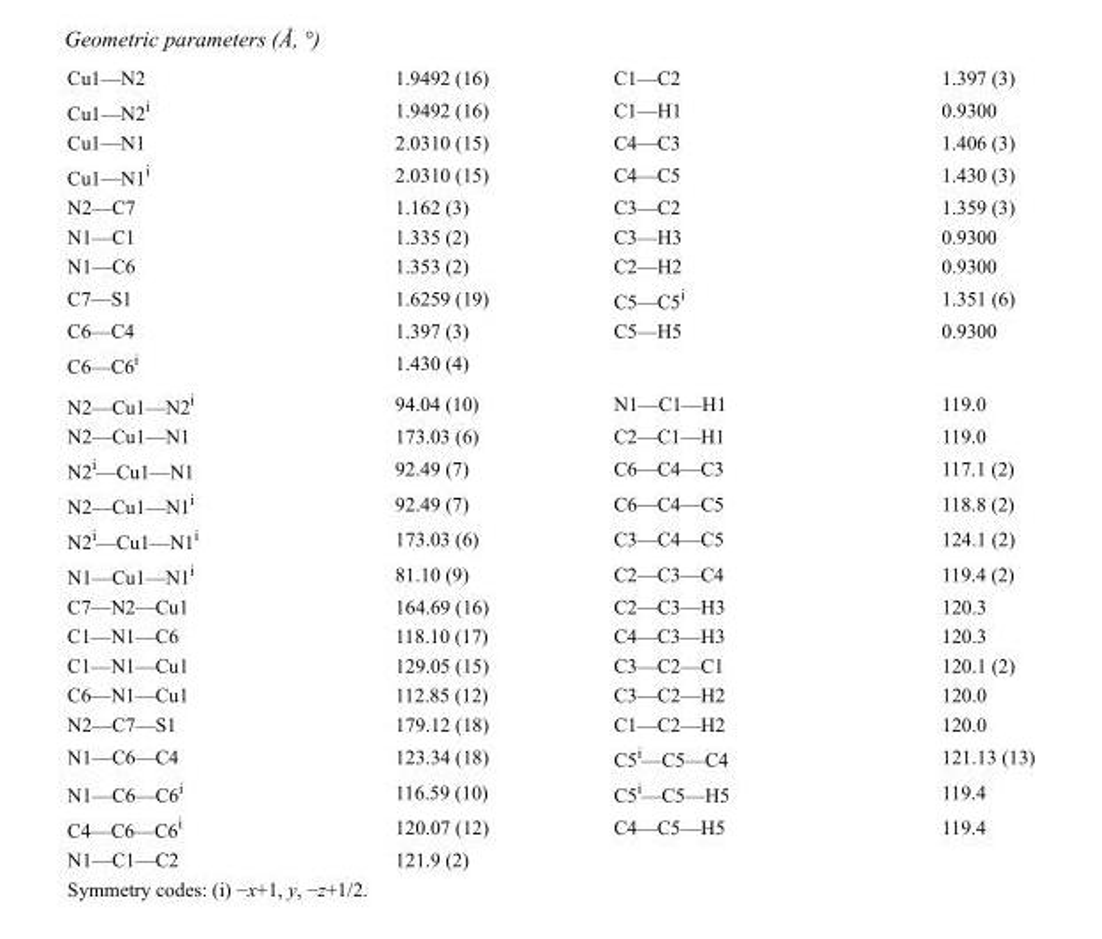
<table><tbody><tr><td>Cu1—N2</td><td>1.9492 (16)</td><td>C1—C2</td><td>1.397 (3)</td></tr><tr><td>Cu1—N2<sup>i</sup></td><td>1.9492 (16)</td><td>C1—H1</td><td>0.9300</td></tr><tr><td>Cu1—N1</td><td>2.0310 (15)</td><td>C4—C3</td><td>1.406 (3)</td></tr><tr><td>Cu1—N1<sup>i</sup></td><td>2.0310 (15)</td><td>C4—C5</td><td>1.430 (3)</td></tr><tr><td>N2—C7</td><td>1.162 (3)</td><td>C3—C2</td><td>1.359 (3)</td></tr><tr><td>N1—C1</td><td>1.335 (2)</td><td>C3—H3</td><td>0.9300</td></tr><tr><td>N1—C6</td><td>1.353 (2)</td><td>C2—H2</td><td>0.9300</td></tr><tr><td>C7—S1</td><td>1.6259 (19)</td><td>C5—C5<sup>i</sup></td><td>1.351 (6)</td></tr><tr><td>C6—C4</td><td>1.397 (3)</td><td>C5—H5</td><td>0.9300</td></tr><tr><td>C6—C6<sup>i</sup></td><td>1.430 (4)</td><td></td><td></td></tr><tr><td>N2—Cu1—N2<sup>i</sup></td><td>94.04 (10)</td><td>N1—C1—H1</td><td>119.0</td></tr><tr><td>N2—Cu1—N1</td><td>173.03 (6)</td><td>C2—C1—H1</td><td>119.0</td></tr><tr><td>N2<sup>i</sup>—Cu1—N1</td><td>92.49 (7)</td><td>C6—C4—C3</td><td>117.1 (2)</td></tr><tr><td>N2—Cu1—N1<sup>i</sup></td><td>92.49 (7)</td><td>C6—C4—C5</td><td>118.8 (2)</td></tr><tr><td>N2<sup>i</sup>—Cu1—N1<sup>i</sup></td><td>173.03 (6)</td><td>C3—C4—C5</td><td>124.1 (2)</td></tr><tr><td>N1—Cu1—N1<sup>i</sup></td><td>81.10 (9)</td><td>C2—C3—C4</td><td>119.4 (2)</td></tr><tr><td>C7—N2—Cu1</td><td>164.69 (16)</td><td>C2—C3—H3</td><td>120.3</td></tr><tr><td>C1—N1—C6</td><td>118.10 (17)</td><td>C4—C3—H3</td><td>120.3</td></tr><tr><td>C1—N1—Cu1</td><td>129.05 (15)</td><td>C3—C2—C1</td><td>120.1 (2)</td></tr><tr><td>C6—N1—Cu1</td><td>112.85 (12)</td><td>C3—C2—H2</td><td>120.0</td></tr><tr><td>N2—C7—S1</td><td>179.12 (18)</td><td>C1—C2—H2</td><td>120.0</td></tr><tr><td>N1—C6—C4</td><td>123.34 (18)</td><td>C5<sup>i</sup>—C5—C4</td><td>121.13 (13)</td></tr><tr><td>N1—C6—C6<sup>i</sup></td><td>116.59 (10)</td><td>C5<sup>i</sup>—C5—H5</td><td>119.4</td></tr><tr><td>C4—C6—C6<sup>i</sup></td><td>120.07 (12)</td><td>C4—C5—H5</td><td>119.4</td></tr><tr><td>N1—C1—C2</td><td>121.9 (2)</td><td></td><td></td></tr></tbody></table>